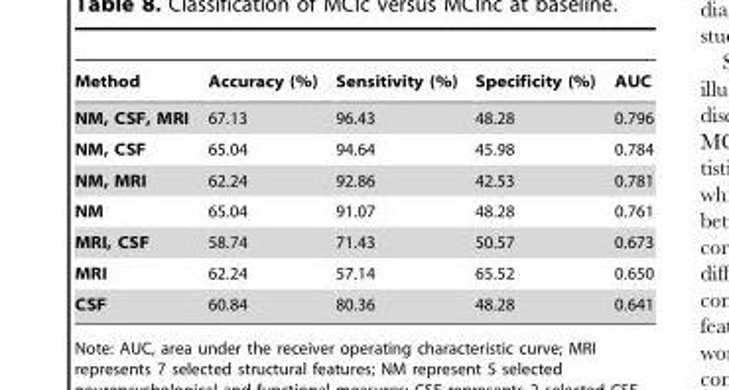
<table><thead><tr><td>Method</td><td>Accuracy (%)</td><td>Sensitivity (%)</td><td>Specificity (%)</td><td>AUC</td></tr></thead><tbody><tr><td>NM, CSF, MRI</td><td>67.13</td><td>96.43</td><td>48.28</td><td>0.796</td></tr><tr><td>NM, CSF</td><td>65.04</td><td>94.64</td><td>45.98</td><td>0.784</td></tr><tr><td>NM, MRI</td><td>62.24</td><td>92.86</td><td>42.53</td><td>0.781</td></tr><tr><td>NM</td><td>65.04</td><td>91.07</td><td>48.28</td><td>0.761</td></tr><tr><td>MRI, CSF</td><td>58.74</td><td>71.43</td><td>50.57</td><td>0.673</td></tr><tr><td>MRI</td><td>62.24</td><td>57.14</td><td>65.52</td><td>0.650</td></tr><tr><td>CSF</td><td>60.84</td><td>80.36</td><td>48.28</td><td>0.641</td></tr></tbody></table>